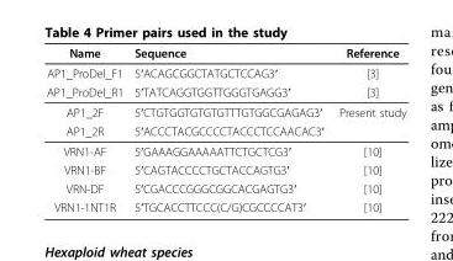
<table><thead><tr><td>Name</td><td>Sequence</td><td>Reference</td></tr></thead><tbody><tr><td>AP1_ProDel_F1</td><td>5′ACAGCGGCTATGCTCCAG3′</td><td>[3]</td></tr><tr><td>AP1_ProDel_R1</td><td>5′TATCAGGTGGTTGGGTGAGG3′</td><td>[3]</td></tr><tr><td>AP1_2F</td><td>5′CTGTGGTGTGTGTTTGTGGCGAGAG3′</td><td>Present study</td></tr><tr><td>AP1_2R</td><td>5′ACCCTACGCCCCTACCCTCCAACAC3′</td><td></td></tr><tr><td>VRN1-AF</td><td>5′GAAAGGAAAAATTCTGCTCG3′</td><td>[10]</td></tr><tr><td>VRN1-BF</td><td>5′CAGTACCCCTGCTACCAGTG3′</td><td>[10]</td></tr><tr><td>VRN-DF</td><td>5′CGACCCGGGCGGCACGAGTG3′</td><td>[10]</td></tr><tr><td>VRN1-1NT1R</td><td>5′TGCACCTTCCC(C/G)CGCCCCAT3′</td><td>[10]</td></tr></tbody></table>